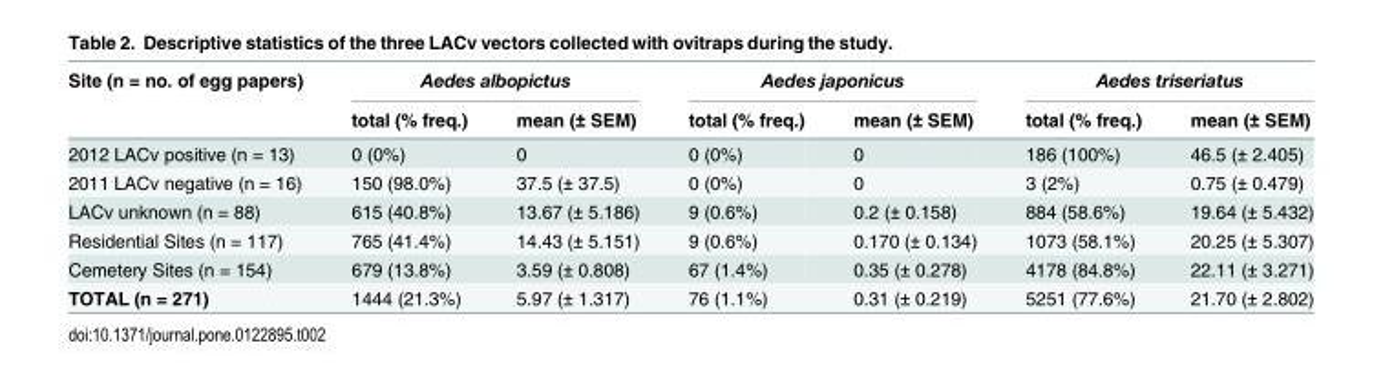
<table><thead><tr><td rowspan="2">Site (n = no. of egg papers)</td><td colspan="2">Aedes albopictus</td><td colspan="2">Aedes japonicus</td><td colspan="2">Aedes triseriatus</td></tr><tr><td>total (% freq.)</td><td>mean (± SEM)</td><td>total (% freq.)</td><td>mean (± SEM)</td><td>total (% freq.)</td><td>mean (± SEM)</td></tr></thead><tbody><tr><td>2012 LACv positive (n = 13)</td><td>0 (0%)</td><td>0</td><td>0 (0%)</td><td>0</td><td>186 (100%)</td><td>46.5 (± 2.405)</td></tr><tr><td>2011 LACv negative (n = 16)</td><td>150 (98.0%)</td><td>37.5 (± 37.5)</td><td>0 (0%)</td><td>0</td><td>3 (2%)</td><td>0.75 (± 0.479)</td></tr><tr><td>LACv unknown (n = 88)</td><td>615 (40.8%)</td><td>13.67 (± 5.186)</td><td>9 (0.6%)</td><td>0.2 (± 0.158)</td><td>884 (58.6%)</td><td>19.64 (± 5.432)</td></tr><tr><td>Residential Sites (n = 117)</td><td>765 (41.4%)</td><td>14.43 (± 5.151)</td><td>9 (0.6%)</td><td>0.170 (± 0.134)</td><td>1073 (58.1%)</td><td>20.25 (± 5.307)</td></tr><tr><td>Cemetery Sites (n = 154)</td><td>679 (13.8%)</td><td>3.59 (± 0.808)</td><td>67 (1.4%)</td><td>0.35 (± 0.278)</td><td>4178 (84.8%)</td><td>22.11 (± 3.271)</td></tr><tr><td>TOTAL (n = 271)</td><td>1444 (21.3%)</td><td>5.97 (± 1.317)</td><td>76 (1.1%)</td><td>0.31 (± 0.219)</td><td>5251 (77.6%)</td><td>21.70 (± 2.802)</td></tr></tbody></table>